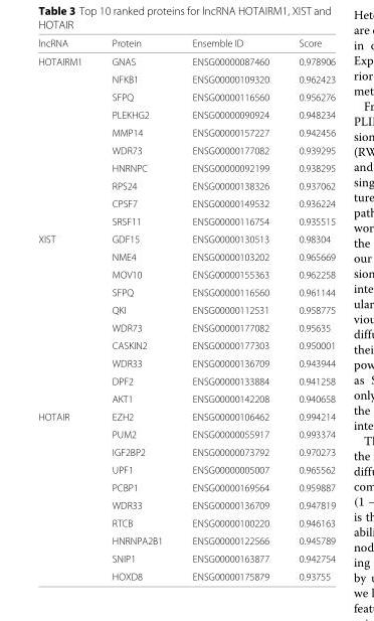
<table><thead><tr><td>lncRNA</td><td>Protein</td><td>Ensemble ID</td><td>Score</td></tr></thead><tbody><tr><td rowspan="10">HOTAIRM1</td><td>GNAS</td><td>ENSG00000087460</td><td>0.978906</td></tr><tr><td>NFKB1</td><td>ENSG00000109320</td><td>0.962423</td></tr><tr><td>SFPQ</td><td>ENSG00000116560</td><td>0.956276</td></tr><tr><td>PLEKHG2</td><td>ENSG00000090924</td><td>0.948234</td></tr><tr><td>MMP14</td><td>ENSG00000157227</td><td>0.942456</td></tr><tr><td>WDR73</td><td>ENSG00000177082</td><td>0.939295</td></tr><tr><td>HNRNPC</td><td>ENSG00000092199</td><td>0.938295</td></tr><tr><td>RPS24</td><td>ENSG00000138326</td><td>0.937062</td></tr><tr><td>CPSF7</td><td>ENSG00000149532</td><td>0.936224</td></tr><tr><td>SRSF11</td><td>ENSG00000116754</td><td>0.935515</td></tr><tr><td rowspan="10">XIST</td><td>GDF15</td><td>ENSG00000130513</td><td>0.98304</td></tr><tr><td>NME4</td><td>ENSG00000103202</td><td>0.965669</td></tr><tr><td>MOV10</td><td>ENSG00000155363</td><td>0.962258</td></tr><tr><td>SFPQ</td><td>ENSG00000116560</td><td>0.961144</td></tr><tr><td>QKI</td><td>ENSG00000112531</td><td>0.958775</td></tr><tr><td>WDR73</td><td>ENSG00000177082</td><td>0.95635</td></tr><tr><td>CASKIN2</td><td>ENSG00000177303</td><td>0.950001</td></tr><tr><td>WDR33</td><td>ENSG00000136709</td><td>0.943944</td></tr><tr><td>DPF2</td><td>ENSG00000133884</td><td>0.941258</td></tr><tr><td>AKT1</td><td>ENSG00000142208</td><td>0.940658</td></tr><tr><td rowspan="10">HOTAIR</td><td>EZH2</td><td>ENSG00000106462</td><td>0.994214</td></tr><tr><td>PUM2</td><td>ENSG00000055917</td><td>0.993374</td></tr><tr><td>IGF2BP2</td><td>ENSG00000073792</td><td>0.970273</td></tr><tr><td>UPF1</td><td>ENSG00000005007</td><td>0.965562</td></tr><tr><td>PCBP1</td><td>ENSG00000169564</td><td>0.959887</td></tr><tr><td>WDR33</td><td>ENSG00000136709</td><td>0.947819</td></tr><tr><td>RTCB</td><td>ENSG00000100220</td><td>0.946163</td></tr><tr><td>HNRNPA2B1</td><td>ENSG00000122566</td><td>0.945789</td></tr><tr><td>SNIP1</td><td>ENSG00000163877</td><td>0.942754</td></tr><tr><td>HOXD8</td><td>ENSG00000175879</td><td>0.93755</td></tr></tbody></table>